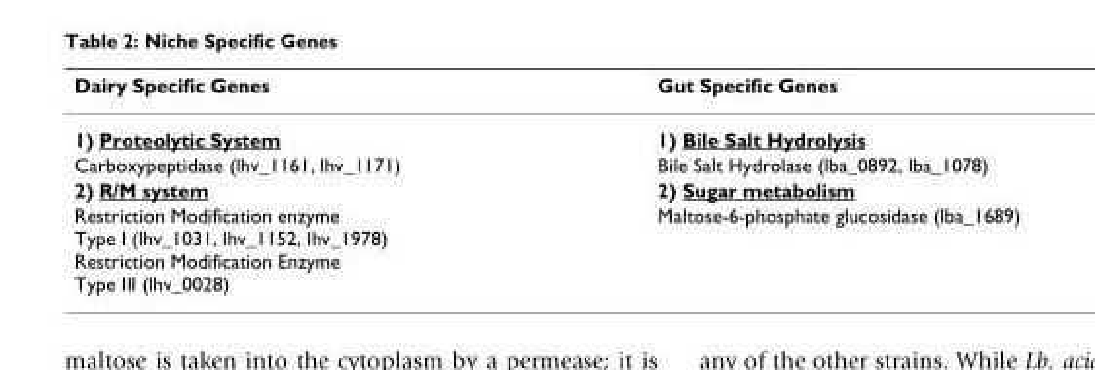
<table><thead><tr><td>Dairy Specific Genes</td><td>Gut Specific Genes</td></tr></thead><tbody><tr><td>1) Proteolytic System</td><td>1) Bile Salt Hydrolysis</td></tr><tr><td>Carboxypeptidase (lhv_1161, lhv_1171)</td><td>Bile Salt Hydrolase (lba_0892, lba_1078)</td></tr><tr><td>2) R/M system</td><td>2) Sugar metabolism</td></tr><tr><td>Restriction Modification enzyme Type I (lhv_1031, lhv_1152, lhv_1978) Restriction Modification Enzyme Type III (lhv_0028)</td><td>Maltose-6-phosphate glucosidase (lba_1689)</td></tr></tbody></table>